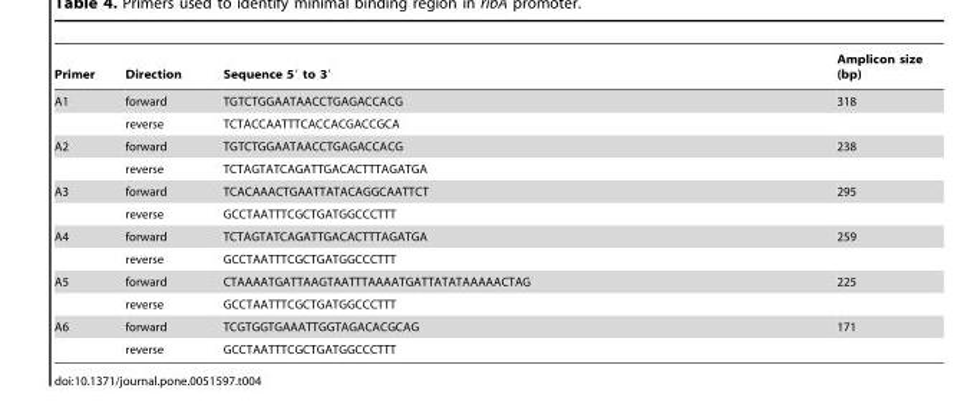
<table><thead><tr><td>Primer</td><td>Direction</td><td>Sequence 5′ to 3′</td><td>Amplicon size (bp)</td></tr></thead><tbody><tr><td rowspan="2">A1</td><td>forward</td><td>TGTCTGGAATAACCTGAGACCACG</td><td>318</td></tr><tr><td>reverse</td><td>TCTACCAATTTCACCACGACCGCA</td><td></td></tr><tr><td rowspan="2">A2</td><td>forward</td><td>TGTCTGGAATAACCTGAGACCACG</td><td>238</td></tr><tr><td>reverse</td><td>TCTAGTATCAGATTGACACTTTAGATGA</td><td></td></tr><tr><td rowspan="2">A3</td><td>forward</td><td>TCACAAACTGAATTATACAGGCAATTCT</td><td>295</td></tr><tr><td>reverse</td><td>GCCTAATTTCGCTGATGGCCCTTT</td><td></td></tr><tr><td rowspan="2">A4</td><td>forward</td><td>TCTAGTATCAGATTGACACTTTAGATGA</td><td>259</td></tr><tr><td>reverse</td><td>GCCTAATTTCGCTGATGGCCCTTT</td><td></td></tr><tr><td rowspan="2">A5</td><td>forward</td><td>CTAAAATGATTAAGTAATTTAAAATGATTATATAAAAACTAG</td><td>225</td></tr><tr><td>reverse</td><td>GCCTAATTTCGCTGATGGCCCTTT</td><td></td></tr><tr><td rowspan="2">A6</td><td>forward</td><td>TCGTGGTGAAATTGGTAGACACGCAG</td><td>171</td></tr><tr><td>reverse</td><td>GCCTAATTTCGCTGATGGCCCTTT</td><td></td></tr></tbody></table>